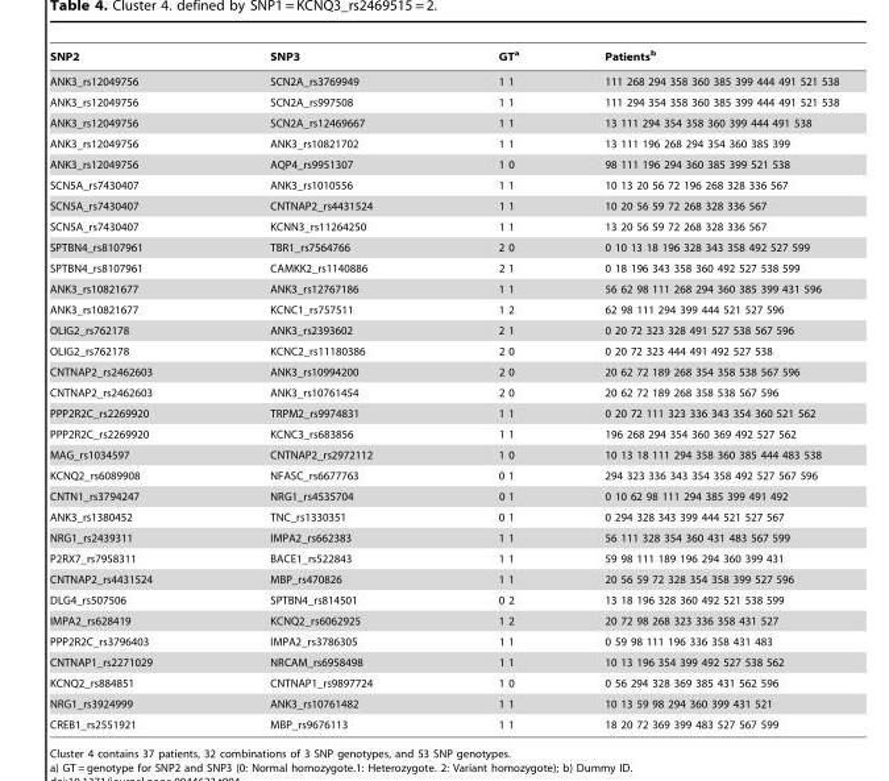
<table><thead><tr><td>SNP2</td><td>SNP3</td><td>GT<sup>a</sup></td><td>Patients<sup>b</sup></td></tr></thead><tbody><tr><td>ANK3_rs12049756</td><td>SCN2A_rs3769949</td><td>1 1</td><td>111 268 294 358 360 385 399 444 491 521 538</td></tr><tr><td>ANK3_rs12049756</td><td>SCN2A_rs997508</td><td>1 1</td><td>111 294 354 358 360 385 399 444 491 521 538</td></tr><tr><td>ANK3_rs12049756</td><td>SCN2A_rs12469667</td><td>1 1</td><td>13 111 294 354 358 360 399 444 491 538</td></tr><tr><td>ANK3_rs12049756</td><td>ANK3_rs10821702</td><td>1 1</td><td>13 111 196 268 294 354 360 385 399</td></tr><tr><td>ANK3_rs12049756</td><td>AQP4_rs9951307</td><td>1 0</td><td>98 111 196 294 360 385 399 521 538</td></tr><tr><td>SCN5A_rs7430407</td><td>ANK3_rs1010556</td><td>1 1</td><td>10 13 20 56 72 196 268 328 336 567</td></tr><tr><td>SCN5A_rs7430407</td><td>CNTNAP2_rs4431524</td><td>1 1</td><td>10 20 56 59 72 268 328 336 567</td></tr><tr><td>SCN5A_rs7430407</td><td>KCNN3_rs11264250</td><td>1 1</td><td>13 20 56 59 72 268 328 336 567</td></tr><tr><td>SPTBN4_rs8107961</td><td>TBR1_rs7564766</td><td>2 0</td><td>0 10 13 18 196 328 343 358 492 527 599</td></tr><tr><td>SPTBN4_rs8107961</td><td>CAMKK2_rs1140886</td><td>2 1</td><td>0 18 196 343 358 360 492 527 538 599</td></tr><tr><td>ANK3_rs10821677</td><td>ANK3_rs12767186</td><td>1 1</td><td>56 62 98 111 268 294 360 385 399 431 596</td></tr><tr><td>ANK3_rs10821677</td><td>KCNC1_rs757511</td><td>1 2</td><td>62 98 111 294 399 444 521 527 596</td></tr><tr><td>OLIG2_rs762178</td><td>ANK3_rs2393602</td><td>2 1</td><td>0 20 72 323 328 491 527 538 567 596</td></tr><tr><td>OLIG2_rs762178</td><td>KCNC2_rs11180386</td><td>2 0</td><td>0 20 72 323 444 491 492 527 538</td></tr><tr><td>CNTNAP2_rs2462603</td><td>ANK3_rs10994200</td><td>2 0</td><td>20 62 72 189 268 354 358 538 567 596</td></tr><tr><td>CNTNAP2_rs2462603</td><td>ANK3_rs10761454</td><td>2 0</td><td>20 62 72 189 268 358 538 567 596</td></tr><tr><td>PPP2R2C_rs2269920</td><td>TRPM2_rs9974831</td><td>1 1</td><td>0 20 72 111 323 336 343 354 360 521 562</td></tr><tr><td>PPP2R2C_rs2269920</td><td>KCNC3_rs683856</td><td>1 1</td><td>196 268 294 354 360 369 492 527 562</td></tr><tr><td>MAG_rs1034597</td><td>CNTNAP2_rs2972112</td><td>1 0</td><td>10 13 18 111 294 358 360 385 444 483 538</td></tr><tr><td>KCNQ2_rs6089908</td><td>NFASC_rs6677763</td><td>0 1</td><td>294 323 336 343 354 358 492 527 567 596</td></tr><tr><td>CNTN1_rs3794247</td><td>NRG1_rs4535704</td><td>0 1</td><td>0 10 62 98 111 294 385 399 491 492</td></tr><tr><td>ANK3_rs1380452</td><td>TNC_rs1330351</td><td>0 1</td><td>0 294 328 343 399 444 521 527 567</td></tr><tr><td>NRG1_rs2439311</td><td>IMPA2_rs662383</td><td>1 1</td><td>56 111 328 354 360 431 483 567 599</td></tr><tr><td>P2RX7_rs7958311</td><td>BACE1_rs522843</td><td>1 1</td><td>59 98 111 189 196 294 360 399 431</td></tr><tr><td>CNTNAP2_rs4431524</td><td>MBP_rs470826</td><td>1 1</td><td>20 56 59 72 328 354 358 399 527 596</td></tr><tr><td>DLG4_rs507506</td><td>SPTBN4_rs814501</td><td>0 2</td><td>13 18 196 328 360 492 521 538 599</td></tr><tr><td>IMPA2_rs628419</td><td>KCNQ2_rs6062925</td><td>1 2</td><td>20 72 98 268 323 336 358 431 527</td></tr><tr><td>PPP2R2C_rs3796403</td><td>IMPA2_rs3786305</td><td>1 1</td><td>0 59 98 111 196 336 358 431 483</td></tr><tr><td>CNTNAP1_rs2271029</td><td>NRCAM_rs6958498</td><td>1 1</td><td>10 13 196 354 399 492 527 538 562</td></tr><tr><td>KCNQ2_rs884851</td><td>CNTNAP1_rs9897724</td><td>1 0</td><td>0 56 294 328 369 385 431 562 596</td></tr><tr><td>NRG1_rs3924999</td><td>ANK3_rs10761482</td><td>1 1</td><td>10 13 59 98 294 360 399 431 521</td></tr><tr><td>CREB1_rs2551921</td><td>MBP_rs9676113</td><td>1 1</td><td>18 20 72 369 399 483 527 567 599</td></tr></tbody></table>